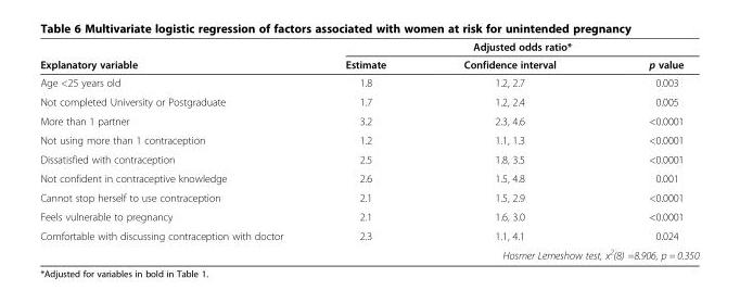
<table><thead><tr><td rowspan="2">Explanatory variable</td><td colspan="3">Adjusted odds ratio*</td></tr><tr><td>Estimate</td><td>Confidence interval</td><td>p value</td></tr></thead><tbody><tr><td>Age &lt;25 years old</td><td>1.8</td><td>1.2, 2.7</td><td>0.003</td></tr><tr><td>Not completed University or Postgraduate</td><td>1.7</td><td>1.2, 2.4</td><td>0.005</td></tr><tr><td>More than 1 partner</td><td>3.2</td><td>2.3, 4.6</td><td>&lt;0.0001</td></tr><tr><td>Not using more than 1 contraception</td><td>1.2</td><td>1.1, 1.3</td><td>&lt;0.0001</td></tr><tr><td>Dissatisfied with contraception</td><td>2.5</td><td>1.8, 3.5</td><td>&lt;0.0001</td></tr><tr><td>Not confident in contraceptive knowledge</td><td>2.6</td><td>1.5, 4.8</td><td>0.001</td></tr><tr><td>Cannot stop herself to use contraception</td><td>2.1</td><td>1.5, 2.9</td><td>&lt;0.0001</td></tr><tr><td>Feels vulnerable to pregnancy</td><td>2.1</td><td>1.6, 3.0</td><td>&lt;0.0001</td></tr><tr><td rowspan="2">Comfortable with discussing contraception with doctor</td><td>2.3</td><td>1.1, 4.1</td><td>0.024</td></tr><tr><td></td><td colspan="2">Hosmer Lemeshow test, x<sup>2</sup>(8) =8.906, p = 0.350</td></tr></tbody></table>